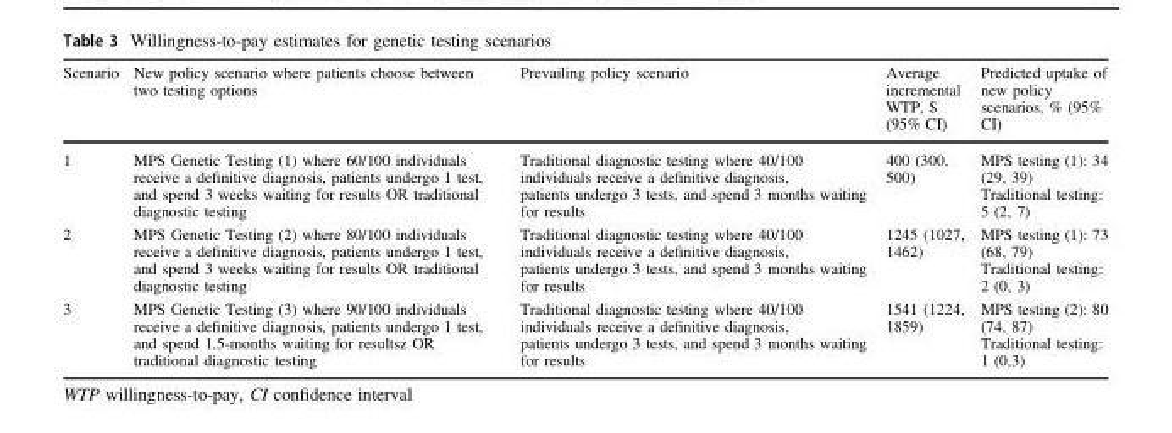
<table><thead><tr><td>Scenario</td><td>New policy scenario where patients choose between two testing options</td><td>Prevailing policy scenario</td><td>Average incremental WTP, $ (95% CI)</td><td>Predicted uptake of new policy scenarios, % (95% CI)</td></tr></thead><tbody><tr><td>1</td><td>MPS Genetic Testing (1) where 60/100 individuals receive a definitive diagnosis, patients undergo 1 test, and spend 3 weeks waiting for results OR traditional diagnostic testing</td><td>Traditional diagnostic testing where 40/100 individuals receive a definitive diagnosis, patients undergo 3 tests, and spend 3 months waiting for results</td><td>400 (300, 500)</td><td>MPS testing (1): 34 (29, 39) Traditional testing: 5 (2, 7)</td></tr><tr><td>2</td><td>MPS Genetic Testing (2) where 80/100 individuals receive a definitive diagnosis, patients undergo 1 test, and spend 3 weeks waiting for results OR traditional diagnostic testing</td><td>Traditional diagnostic testing where 40/100 individuals receive a definitive diagnosis, patients undergo 3 tests, and spend 3 months waiting for results</td><td>1245 (1027, 1462)</td><td>MPS testing (1): 73 (68, 79) Traditional testing: 2 (0, 3)</td></tr><tr><td>3</td><td>MPS Genetic Testing (3) where 90/100 individuals receive a definitive diagnosis, patients undergo 1 test, and spend 1.5-months waiting for resultsz OR traditional diagnostic testing</td><td>Traditional diagnostic testing where 40/100 individuals receive a definitive diagnosis, patients undergo 3 tests, and spend 3 months waiting for results</td><td>1541 (1224, 1859)</td><td>MPS testing (2): 80 (74, 87) Traditional testing: 1 (0,3)</td></tr></tbody></table>